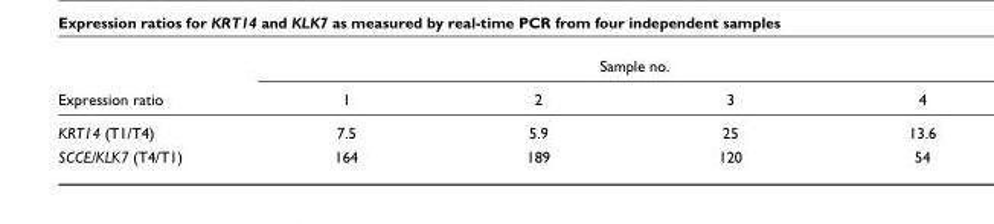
<table><thead><tr><td rowspan="2">Expression ratio</td><td colspan="4">Sample no.</td></tr><tr><td>1</td><td>2</td><td>3</td><td>4</td></tr></thead><tbody><tr><td>KRT14 (T1/T4)</td><td>7.5</td><td>5.9</td><td>25</td><td>13.6</td></tr><tr><td>SCCE/KLK7 (T4/T1)</td><td>164</td><td>189</td><td>120</td><td>54</td></tr></tbody></table>